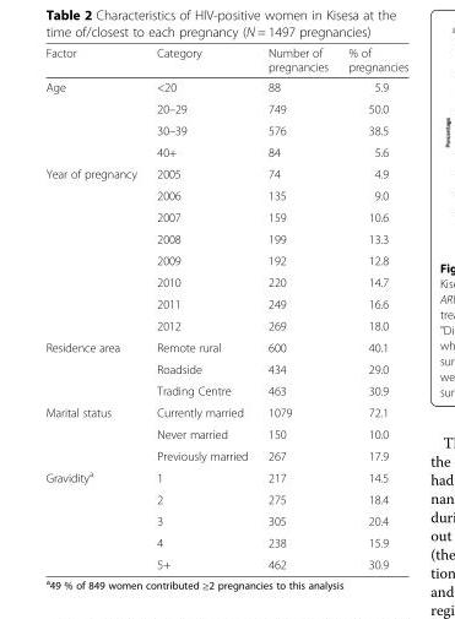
<table><thead><tr><td>Factor</td><td>Category</td><td>Number of pregnancies</td><td>% of pregnancies</td></tr></thead><tbody><tr><td rowspan="4">Age</td><td>&lt;20</td><td>88</td><td>5.9</td></tr><tr><td>20–29</td><td>749</td><td>50.0</td></tr><tr><td>30–39</td><td>576</td><td>38.5</td></tr><tr><td>40+</td><td>84</td><td>5.6</td></tr><tr><td rowspan="8">Year of pregnancy</td><td>2005</td><td>74</td><td>4.9</td></tr><tr><td>2006</td><td>135</td><td>9.0</td></tr><tr><td>2007</td><td>159</td><td>10.6</td></tr><tr><td>2008</td><td>199</td><td>13.3</td></tr><tr><td>2009</td><td>192</td><td>12.8</td></tr><tr><td>2010</td><td>220</td><td>14.7</td></tr><tr><td>2011</td><td>249</td><td>16.6</td></tr><tr><td>2012</td><td>269</td><td>18.0</td></tr><tr><td rowspan="3">Residence area</td><td>Remote rural</td><td>600</td><td>40.1</td></tr><tr><td>Roadside</td><td>434</td><td>29.0</td></tr><tr><td>Trading Centre</td><td>463</td><td>30.9</td></tr><tr><td rowspan="3">Marital status</td><td>Currently married</td><td>1079</td><td>72.1</td></tr><tr><td>Never married</td><td>150</td><td>10.0</td></tr><tr><td>Previously married</td><td>267</td><td>17.9</td></tr><tr><td rowspan="5">Gravidity<sup>a</sup></td><td>1</td><td>217</td><td>14.5</td></tr><tr><td>2</td><td>275</td><td>18.4</td></tr><tr><td>3</td><td>305</td><td>20.4</td></tr><tr><td>4</td><td>238</td><td>15.9</td></tr><tr><td>5+</td><td>462</td><td>30.9</td></tr></tbody></table>